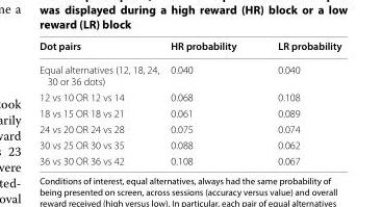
<table><thead><tr><td>Dot pairs</td><td>HR probability</td><td>LR probability</td></tr></thead><tbody><tr><td>Equal alternatives (12, 18, 24, 30 or 36 dots)</td><td>0.040</td><td>0.040</td></tr><tr><td>12 vs 10 OR 12 vs 14</td><td>0.068</td><td>0.108</td></tr><tr><td>18 vs 15 OR 18 vs 21</td><td>0.061</td><td>0.089</td></tr><tr><td>24 vs 20 OR 24 vs 28</td><td>0.075</td><td>0.074</td></tr><tr><td>30 vs 25 OR 30 vs 35</td><td>0.088</td><td>0.062</td></tr><tr><td>36 vs 30 OR 36 vs 42</td><td>0.108</td><td>0.067</td></tr></tbody></table>